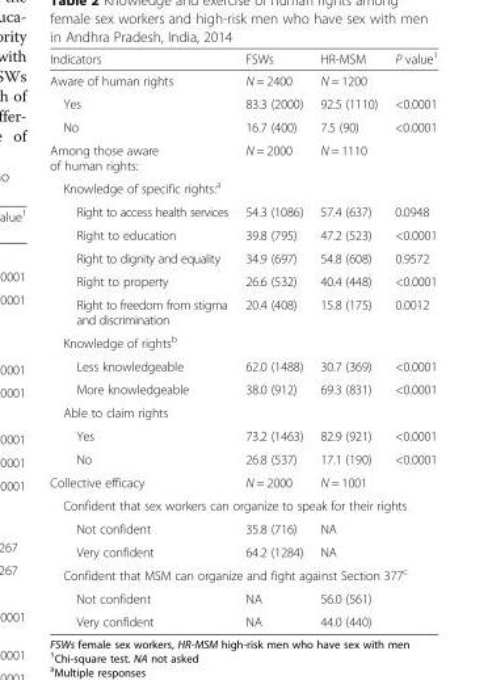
<table><thead><tr><td>Indicators</td><td>FSWs</td><td>HR-MSM</td><td>P value<sup>1</sup></td></tr></thead><tbody><tr><td>Aware of human rights</td><td>N = 2400</td><td>N = 1200</td><td></td></tr><tr><td>Yes</td><td>83.3 (2000)</td><td>92.5 (1110)</td><td>&lt;0.0001</td></tr><tr><td>No</td><td>16.7 (400)</td><td>7.5 (90)</td><td>&lt;0.0001</td></tr><tr><td>Among those aware of human rights:</td><td>N = 2000</td><td>N = 1110</td><td></td></tr><tr><td colspan="4">Knowledge of specific rights:<sup>a</sup></td></tr><tr><td>Right to access health services</td><td>54.3 (1086)</td><td>57.4 (637)</td><td>0.0948</td></tr><tr><td>Right to education</td><td>39.8 (795)</td><td>47.2 (523)</td><td>&lt;0.0001</td></tr><tr><td>Right to dignity and equality</td><td>34.9 (697)</td><td>54.8 (608)</td><td>0.9572</td></tr><tr><td>Right to property</td><td>26.6 (532)</td><td>40.4 (448)</td><td>&lt;0.0001</td></tr><tr><td>Right to freedom from stigma and discrimination</td><td>20.4 (408)</td><td>15.8 (175)</td><td>0.0012</td></tr><tr><td colspan="4">Knowledge of rights<sup>b</sup></td></tr><tr><td>Less knowledgeable</td><td>62.0 (1488)</td><td>30.7 (369)</td><td>&lt;0.0001</td></tr><tr><td>More knowledgeable</td><td>38.0 (912)</td><td>69.3 (831)</td><td>&lt;0.0001</td></tr><tr><td colspan="4">Able to claim rights</td></tr><tr><td>Yes</td><td>73.2 (1463)</td><td>82.9 (921)</td><td>&lt;0.0001</td></tr><tr><td>No</td><td>26.8 (537)</td><td>17.1 (190)</td><td>&lt;0.0001</td></tr><tr><td>Collective efficacy</td><td>N = 2000</td><td>N = 1001</td><td></td></tr><tr><td colspan="4">Confident that sex workers can organize to speak for their rights</td></tr><tr><td>Not confident</td><td>35.8 (716)</td><td>NA</td><td></td></tr><tr><td>Very confident</td><td>64.2 (1284)</td><td>NA</td><td></td></tr><tr><td colspan="4">Confident that MSM can organize and fight against Section 377<sup>c</sup></td></tr><tr><td>Not confident</td><td>NA</td><td>56.0 (561)</td><td></td></tr><tr><td>Very confident</td><td>NA</td><td>44.0 (440)</td><td></td></tr></tbody></table>